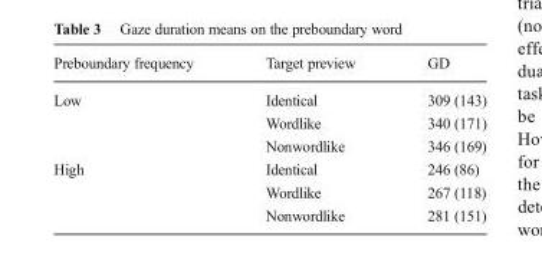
<table><thead><tr><td>Preboundary frequency</td><td>Target preview</td><td>GD</td></tr></thead><tbody><tr><td rowspan="3">Low</td><td>Identical</td><td>309 (143)</td></tr><tr><td>Wordlike</td><td>340 (171)</td></tr><tr><td>Nonwordlike</td><td>346 (169)</td></tr><tr><td rowspan="3">High</td><td>Identical</td><td>246 (86)</td></tr><tr><td>Wordlike</td><td>267 (118)</td></tr><tr><td>Nonwordlike</td><td>281 (151)</td></tr></tbody></table>